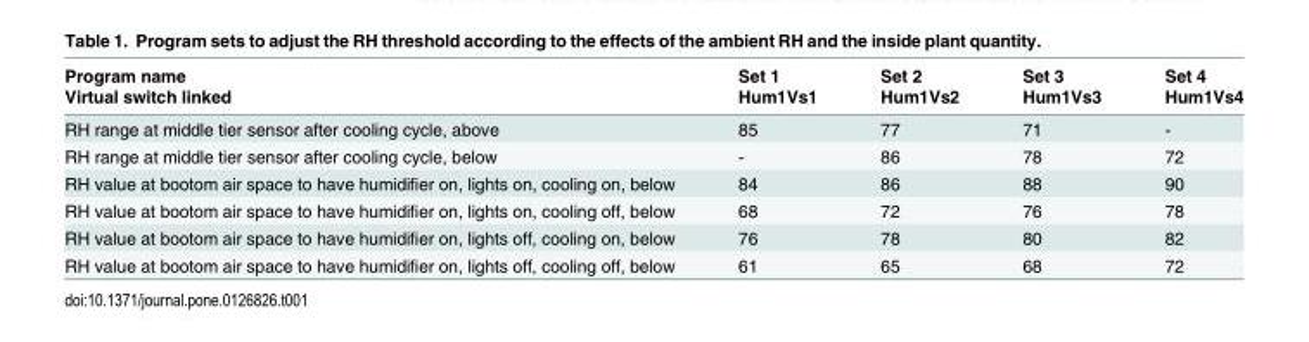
<table><thead><tr><td rowspan="2">Program name Virtual switch linked</td><td rowspan="2">Set 1 Hum1Vs1</td><td rowspan="2">Set 2 Hum1Vs2</td><td rowspan="2">Set 3 Hum1Vs3</td><td rowspan="2">Set 4 Hum1Vs4</td></tr><tr></tr></thead><tbody><tr><td>RH range at middle tier sensor after cooling cycle, above</td><td>85</td><td>77</td><td>71</td><td>-</td></tr><tr><td>RH range at middle tier sensor after cooling cycle, below</td><td>-</td><td>86</td><td>78</td><td>72</td></tr><tr><td>RH value at bootom air space to have humidifier on, lights on, cooling on, below</td><td>84</td><td>86</td><td>88</td><td>90</td></tr><tr><td>RH value at bootom air space to have humidifier on, lights on, cooling off, below</td><td>68</td><td>72</td><td>76</td><td>78</td></tr><tr><td>RH value at bootom air space to have humidifier on, lights off, cooling on, below</td><td>76</td><td>78</td><td>80</td><td>82</td></tr><tr><td>RH value at bootom air space to have humidifier on, lights off, cooling off, below</td><td>61</td><td>65</td><td>68</td><td>72</td></tr></tbody></table>